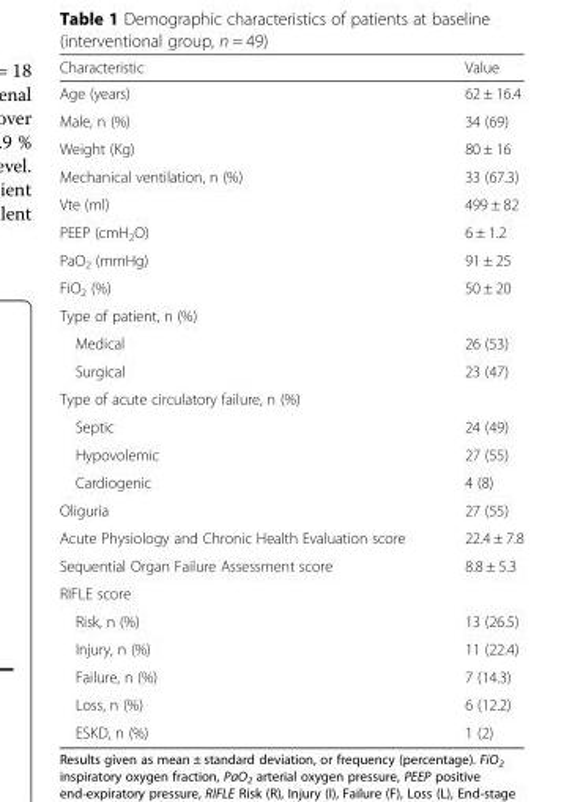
<table><thead><tr><td>Characteristic</td><td>Value</td></tr></thead><tbody><tr><td>Age (years)</td><td>62 ± 16.4</td></tr><tr><td>Male, n (%)</td><td>34 (69)</td></tr><tr><td>Weight (Kg)</td><td>80 ± 16</td></tr><tr><td>Mechanical ventilation, n (%)</td><td>33 (67.3)</td></tr><tr><td>Vte (ml)</td><td>499 ± 82</td></tr><tr><td>PEEP (cmH<sub>2</sub>O)</td><td>6 ± 1.2</td></tr><tr><td>PaO<sub>2</sub> (mmHg)</td><td>91 ± 25</td></tr><tr><td>FiO<sub>2</sub> (%)</td><td>50 ± 20</td></tr><tr><td colspan="2">Type of patient, n (%)</td></tr><tr><td>Medical</td><td>26 (53)</td></tr><tr><td>Surgical</td><td>23 (47)</td></tr><tr><td colspan="2">Type of acute circulatory failure, n (%)</td></tr><tr><td>Septic</td><td>24 (49)</td></tr><tr><td>Hypovolemic</td><td>27 (55)</td></tr><tr><td>Cardiogenic</td><td>4 (8)</td></tr><tr><td>Oliguria</td><td>27 (55)</td></tr><tr><td>Acute Physiology and Chronic Health Evaluation score</td><td>22.4 ± 7.8</td></tr><tr><td>Sequential Organ Failure Assessment score</td><td>8.8 ± 5.3</td></tr><tr><td colspan="2">RIFLE score</td></tr><tr><td>Risk, n (%)</td><td>13 (26.5)</td></tr><tr><td>Injury, n (%)</td><td>11 (22.4)</td></tr><tr><td>Failure, n (%)</td><td>7 (14.3)</td></tr><tr><td>Loss, n (%)</td><td>6 (12.2)</td></tr><tr><td>ESKD, n (%)</td><td>1 (2)</td></tr></tbody></table>